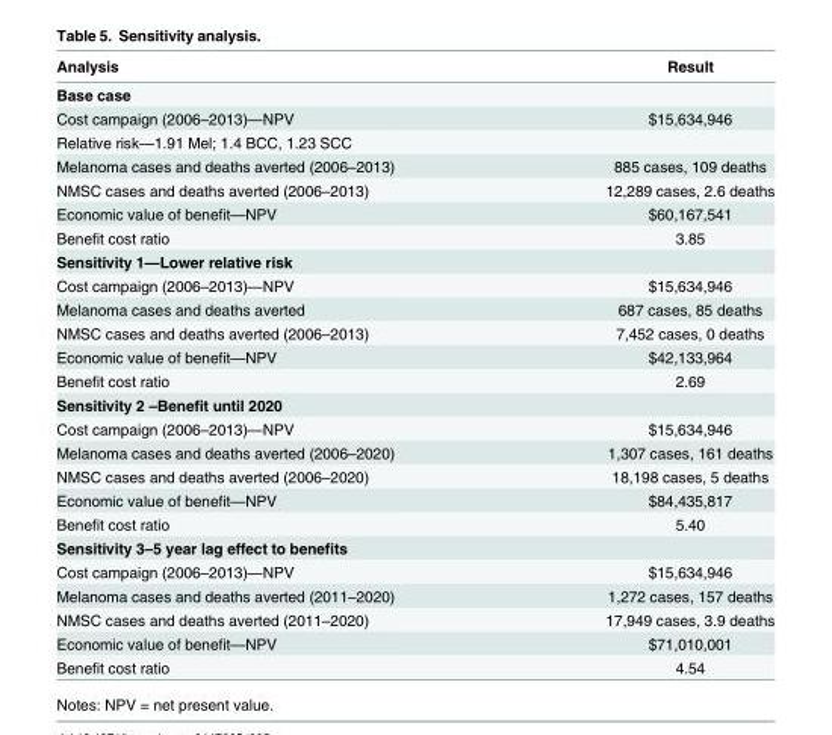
<table><thead><tr><td>Analysis</td><td>Result</td></tr></thead><tbody><tr><td colspan="2">Base case</td></tr><tr><td>Cost campaign (2006–2013)—NPV</td><td>$15,634,946</td></tr><tr><td colspan="2">Relative risk—1.91 Mel; 1.4 BCC, 1.23 SCC</td></tr><tr><td>Melanoma cases and deaths averted (2006–2013)</td><td>885 cases, 109 deaths</td></tr><tr><td>NMSC cases and deaths averted (2006–2013)</td><td>12,289 cases, 2.6 deaths</td></tr><tr><td>Economic value of benefit—NPV</td><td>$60,167,541</td></tr><tr><td>Benefit cost ratio</td><td>3.85</td></tr><tr><td colspan="2">Sensitivity 1—Lower relative risk</td></tr><tr><td>Cost campaign (2006–2013)—NPV</td><td>$15,634,946</td></tr><tr><td>Melanoma cases and deaths averted</td><td>687 cases, 85 deaths</td></tr><tr><td>NMSC cases and deaths averted (2006–2013)</td><td>7,452 cases, 0 deaths</td></tr><tr><td>Economic value of benefit—NPV</td><td>$42,133,964</td></tr><tr><td>Benefit cost ratio</td><td>2.69</td></tr><tr><td colspan="2">Sensitivity 2 –Benefit until 2020</td></tr><tr><td>Cost campaign (2006–2013)—NPV</td><td>$15,634,946</td></tr><tr><td>Melanoma cases and deaths averted (2006–2020)</td><td>1,307 cases, 161 deaths</td></tr><tr><td>NMSC cases and deaths averted (2006–2020)</td><td>18,198 cases, 5 deaths</td></tr><tr><td>Economic value of benefit—NPV</td><td>$84,435,817</td></tr><tr><td>Benefit cost ratio</td><td>5.40</td></tr><tr><td colspan="2">Sensitivity 3–5 year lag effect to benefits</td></tr><tr><td>Cost campaign (2006–2013)—NPV</td><td>$15,634,946</td></tr><tr><td>Melanoma cases and deaths averted (2011–2020)</td><td>1,272 cases, 157 deaths</td></tr><tr><td>NMSC cases and deaths averted (2011–2020)</td><td>17,949 cases, 3.9 deaths</td></tr><tr><td>Economic value of benefit—NPV</td><td>$71,010,001</td></tr><tr><td>Benefit cost ratio</td><td>4.54</td></tr></tbody></table>